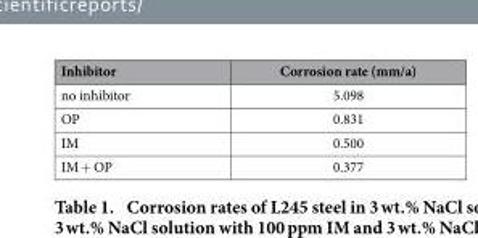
<table><thead><tr><td>Inhibitor</td><td>Corrosion rate (mm/a)</td></tr></thead><tbody><tr><td>no inhibitor</td><td>5.098</td></tr><tr><td>OP</td><td>0.831</td></tr><tr><td>IM</td><td>0.500</td></tr><tr><td>IM + OP</td><td>0.377</td></tr></tbody></table>